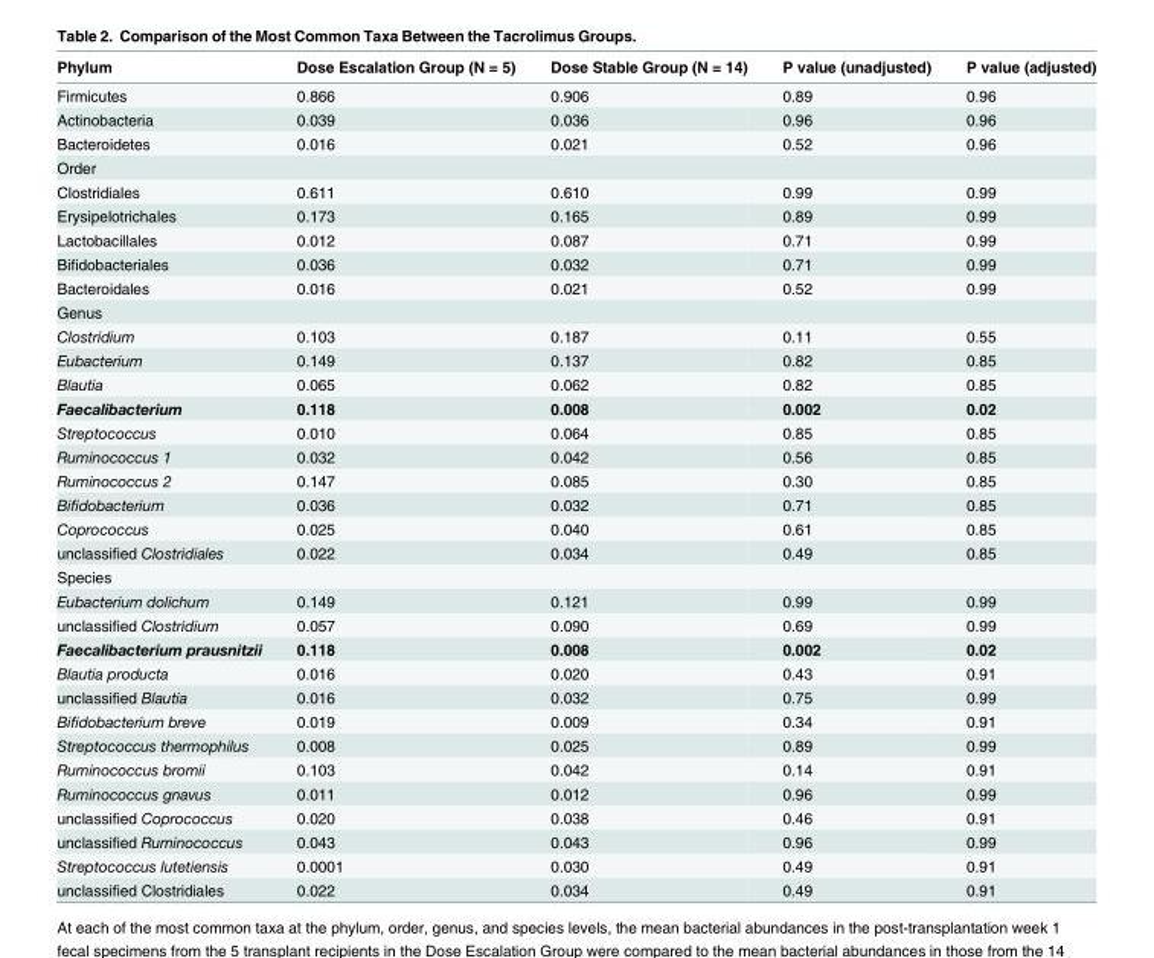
<table><thead><tr><td>Phylum</td><td>Dose Escalation Group (N = 5)</td><td>Dose Stable Group (N = 14)</td><td>P value (unadjusted)</td><td>P value (adjusted)</td></tr></thead><tbody><tr><td>Firmicutes</td><td>0.866</td><td>0.906</td><td>0.89</td><td>0.96</td></tr><tr><td>Actinobacteria</td><td>0.039</td><td>0.036</td><td>0.96</td><td>0.96</td></tr><tr><td>Bacteroidetes</td><td>0.016</td><td>0.021</td><td>0.52</td><td>0.96</td></tr><tr><td colspan="5">Order</td></tr><tr><td>Clostridiales</td><td>0.611</td><td>0.610</td><td>0.99</td><td>0.99</td></tr><tr><td>Erysipelotrichales</td><td>0.173</td><td>0.165</td><td>0.89</td><td>0.99</td></tr><tr><td>Lactobacillales</td><td>0.012</td><td>0.087</td><td>0.71</td><td>0.99</td></tr><tr><td>Bifidobacteriales</td><td>0.036</td><td>0.032</td><td>0.71</td><td>0.99</td></tr><tr><td>Bacteroidales</td><td>0.016</td><td>0.021</td><td>0.52</td><td>0.99</td></tr><tr><td colspan="5">Genus</td></tr><tr><td>Clostridium</td><td>0.103</td><td>0.187</td><td>0.11</td><td>0.55</td></tr><tr><td>Eubacterium</td><td>0.149</td><td>0.137</td><td>0.82</td><td>0.85</td></tr><tr><td>Blautia</td><td>0.065</td><td>0.062</td><td>0.82</td><td>0.85</td></tr><tr><td>Faecalibacterium</td><td>0.118</td><td>0.008</td><td>0.002</td><td>0.02</td></tr><tr><td>Streptococcus</td><td>0.010</td><td>0.064</td><td>0.85</td><td>0.85</td></tr><tr><td>Ruminococcus 1</td><td>0.032</td><td>0.042</td><td>0.56</td><td>0.85</td></tr><tr><td>Ruminococcus 2</td><td>0.147</td><td>0.085</td><td>0.30</td><td>0.85</td></tr><tr><td>Bifidobacterium</td><td>0.036</td><td>0.032</td><td>0.71</td><td>0.85</td></tr><tr><td>Coprococcus</td><td>0.025</td><td>0.040</td><td>0.61</td><td>0.85</td></tr><tr><td>unclassified Clostridiales</td><td>0.022</td><td>0.034</td><td>0.49</td><td>0.85</td></tr><tr><td colspan="5">Species</td></tr><tr><td>Eubacterium dolichum</td><td>0.149</td><td>0.121</td><td>0.99</td><td>0.99</td></tr><tr><td>unclassified Clostridium</td><td>0.057</td><td>0.090</td><td>0.69</td><td>0.99</td></tr><tr><td>Faecalibacterium prausnitzii</td><td>0.118</td><td>0.008</td><td>0.002</td><td>0.02</td></tr><tr><td>Blautia producta</td><td>0.016</td><td>0.020</td><td>0.43</td><td>0.91</td></tr><tr><td>unclassified Blautia</td><td>0.016</td><td>0.032</td><td>0.75</td><td>0.99</td></tr><tr><td>Bifidobacterium breve</td><td>0.019</td><td>0.009</td><td>0.34</td><td>0.91</td></tr><tr><td>Streptococcus thermophilus</td><td>0.008</td><td>0.025</td><td>0.89</td><td>0.99</td></tr><tr><td>Ruminococcus bromii</td><td>0.103</td><td>0.042</td><td>0.14</td><td>0.91</td></tr><tr><td>Ruminococcus gnavus</td><td>0.011</td><td>0.012</td><td>0.96</td><td>0.99</td></tr><tr><td>unclassified Coprococcus</td><td>0.020</td><td>0.038</td><td>0.46</td><td>0.91</td></tr><tr><td>unclassified Ruminococcus</td><td>0.043</td><td>0.043</td><td>0.96</td><td>0.99</td></tr><tr><td>Streptococcus lutetiensis</td><td>0.0001</td><td>0.030</td><td>0.49</td><td>0.91</td></tr><tr><td>unclassified Clostridiales</td><td>0.022</td><td>0.034</td><td>0.49</td><td>0.91</td></tr></tbody></table>